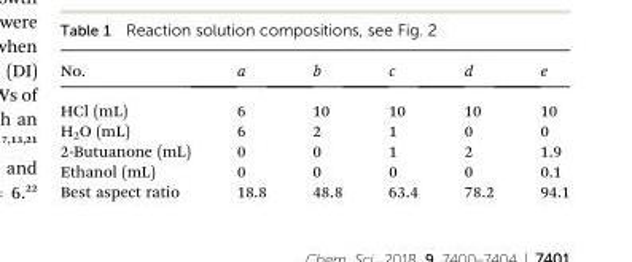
<table><thead><tr><td>No.</td><td>a</td><td>b</td><td>c</td><td>d</td><td>e</td></tr></thead><tbody><tr><td>HCl (mL)</td><td>6</td><td>10</td><td>10</td><td>10</td><td>10</td></tr><tr><td>H<sub>2</sub>O (mL)</td><td>6</td><td>2</td><td>1</td><td>0</td><td>0</td></tr><tr><td>2-Butuanone (mL)</td><td>0</td><td>0</td><td>1</td><td>2</td><td>1.9</td></tr><tr><td>Ethanol (mL)</td><td>0</td><td>0</td><td>0</td><td>0</td><td>0.1</td></tr><tr><td>Best aspect ratio</td><td>18.8</td><td>48.8</td><td>63.4</td><td>78.2</td><td>94.1</td></tr></tbody></table>